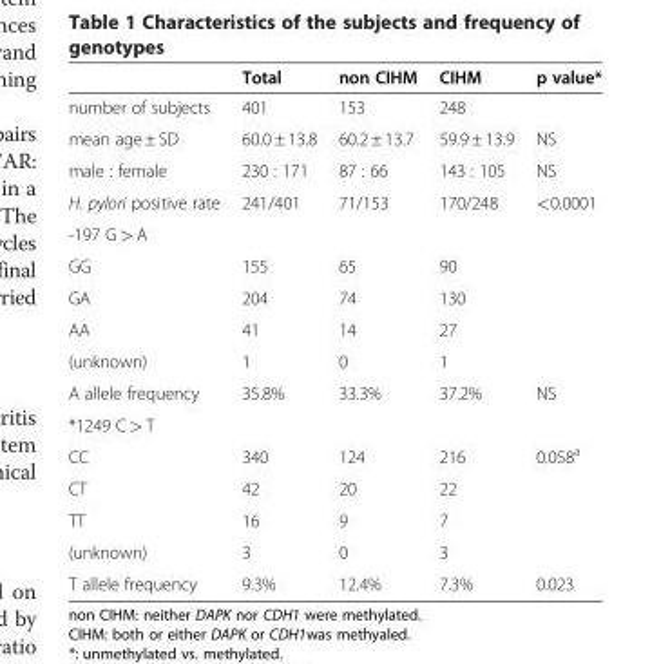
<table><thead><tr><td></td><td>Total</td><td>non CIHM</td><td>CIHM</td><td>p value*</td></tr></thead><tbody><tr><td>number of subjects</td><td>401</td><td>153</td><td>248</td><td></td></tr><tr><td>mean age ± SD</td><td>60.0 ± 13.8</td><td>60.2 ± 13.7</td><td>59.9 ± 13.9</td><td>NS</td></tr><tr><td>male : female</td><td>230 : 171</td><td>87 : 66</td><td>143 : 105</td><td>NS</td></tr><tr><td>H. pylori positive rate</td><td>241/401</td><td>71/153</td><td>170/248</td><td>&lt;0.0001</td></tr><tr><td colspan="5">-197 G &gt; A</td></tr><tr><td>GG</td><td>155</td><td>65</td><td>90</td><td></td></tr><tr><td>GA</td><td>204</td><td>74</td><td>130</td><td></td></tr><tr><td>AA</td><td>41</td><td>14</td><td>27</td><td></td></tr><tr><td>(unknown)</td><td>1</td><td>0</td><td>1</td><td></td></tr><tr><td>A allele frequency</td><td>35.8%</td><td>33.3%</td><td>37.2%</td><td>NS</td></tr><tr><td colspan="5">*1249 C &gt; T</td></tr><tr><td>CC</td><td>340</td><td>124</td><td>216</td><td>0.058<sup>a</sup></td></tr><tr><td>CT</td><td>42</td><td>20</td><td>22</td><td></td></tr><tr><td>TT</td><td>16</td><td>9</td><td>7</td><td></td></tr><tr><td>(unknown)</td><td>3</td><td>0</td><td>3</td><td></td></tr><tr><td>T allele frequency</td><td>9.3%</td><td>12.4%</td><td>7.3%</td><td>0.023</td></tr></tbody></table>